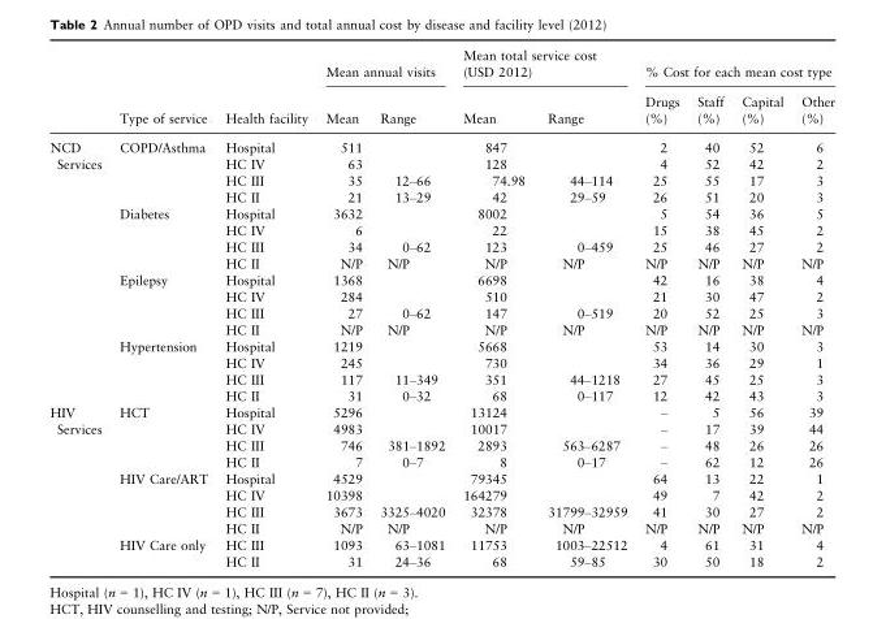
<table><thead><tr><td rowspan="2"></td><td rowspan="2">Type of service</td><td rowspan="2">Health facility</td><td colspan="2">Mean annual visits</td><td colspan="2">Mean total service cost (USD 2012)</td><td colspan="4">% Cost for each mean cost type</td></tr><tr><td>Mean</td><td>Range</td><td>Mean</td><td>Range</td><td>Drugs (%)</td><td>Staff (%)</td><td>Capital (%)</td><td>Other (%)</td></tr></thead><tbody><tr><td rowspan="16">NCD Services</td><td rowspan="4">COPD/Asthma</td><td>Hospital</td><td>511</td><td></td><td>847</td><td></td><td>2</td><td>40</td><td>52</td><td>6</td></tr><tr><td>HC IV</td><td>63</td><td></td><td>128</td><td></td><td>4</td><td>52</td><td>42</td><td>2</td></tr><tr><td>HC III</td><td>35</td><td>12–66</td><td>74.98</td><td>44–114</td><td>25</td><td>55</td><td>17</td><td>3</td></tr><tr><td>HC II</td><td>21</td><td>13–29</td><td>42</td><td>29–59</td><td>26</td><td>51</td><td>20</td><td>3</td></tr><tr><td rowspan="4">Diabetes</td><td>Hospital</td><td>3632</td><td></td><td>8002</td><td></td><td>5</td><td>54</td><td>36</td><td>5</td></tr><tr><td>HC IV</td><td>6</td><td></td><td>22</td><td></td><td>15</td><td>38</td><td>45</td><td>2</td></tr><tr><td>HC III</td><td>34</td><td>0–62</td><td>123</td><td>0–459</td><td>25</td><td>46</td><td>27</td><td>2</td></tr><tr><td>HC II</td><td>N/P</td><td>N/P</td><td>N/P</td><td>N/P</td><td>N/P</td><td>N/P</td><td>N/P</td><td>N/P</td></tr><tr><td rowspan="4">Epilepsy</td><td>Hospital</td><td>1368</td><td></td><td>6698</td><td></td><td>42</td><td>16</td><td>38</td><td>4</td></tr><tr><td>HC IV</td><td>284</td><td></td><td>510</td><td></td><td>21</td><td>30</td><td>47</td><td>2</td></tr><tr><td>HC III</td><td>27</td><td>0–62</td><td>147</td><td>0–519</td><td>20</td><td>52</td><td>25</td><td>3</td></tr><tr><td>HC II</td><td>N/P</td><td>N/P</td><td>N/P</td><td>N/P</td><td>N/P</td><td>N/P</td><td>N/P</td><td>N/P</td></tr><tr><td rowspan="4">Hypertension</td><td>Hospital</td><td>1219</td><td></td><td>5668</td><td></td><td>53</td><td>14</td><td>30</td><td>3</td></tr><tr><td>HC IV</td><td>245</td><td></td><td>730</td><td></td><td>34</td><td>36</td><td>29</td><td>1</td></tr><tr><td>HC III</td><td>117</td><td>11–349</td><td>351</td><td>44–1218</td><td>27</td><td>45</td><td>25</td><td>3</td></tr><tr><td>HC II</td><td>31</td><td>0–32</td><td>68</td><td>0–117</td><td>12</td><td>42</td><td>43</td><td>3</td></tr><tr><td rowspan="10">HIV Services</td><td rowspan="4">HCT</td><td>Hospital</td><td>5296</td><td></td><td>13124</td><td></td><td>–</td><td>5</td><td>56</td><td>39</td></tr><tr><td>HC IV</td><td>4983</td><td></td><td>10017</td><td></td><td>–</td><td>17</td><td>39</td><td>44</td></tr><tr><td>HC III</td><td>746</td><td>381–1892</td><td>2893</td><td>563–6287</td><td>–</td><td>48</td><td>26</td><td>26</td></tr><tr><td>HC II</td><td>7</td><td>0–7</td><td>8</td><td>0–17</td><td>–</td><td>62</td><td>12</td><td>26</td></tr><tr><td rowspan="4">HIV Care/ART</td><td>Hospital</td><td>4529</td><td></td><td>79345</td><td></td><td>64</td><td>13</td><td>22</td><td>1</td></tr><tr><td>HC IV</td><td>10398</td><td></td><td>164279</td><td></td><td>49</td><td>7</td><td>42</td><td>2</td></tr><tr><td>HC III</td><td>3673</td><td>3325–4020</td><td>32378</td><td>31799–32959</td><td>41</td><td>30</td><td>27</td><td>2</td></tr><tr><td>HC II</td><td>N/P</td><td>N/P</td><td>N/P</td><td>N/P</td><td>N/P</td><td>N/P</td><td>N/P</td><td>N/P</td></tr><tr><td rowspan="2">HIV Care only</td><td>HC III</td><td>1093</td><td>63–1081</td><td>11753</td><td>1003–22512</td><td>4</td><td>61</td><td>31</td><td>4</td></tr><tr><td>HC II</td><td>31</td><td>24–36</td><td>68</td><td>59–85</td><td>30</td><td>50</td><td>18</td><td>2</td></tr></tbody></table>